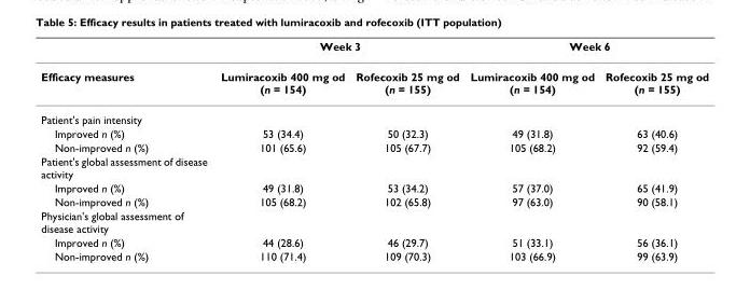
<table><thead><tr><td rowspan="2">Efficacy measures</td><td colspan="2">Week 3</td><td colspan="2">Week 6</td></tr><tr><td>Lumiracoxib 400 mg od (n = 154)</td><td>Rofecoxib 25 mg od (n = 155)</td><td>Lumiracoxib 400 mg od (n = 154)</td><td>Rofecoxib 25 mg od (n = 155)</td></tr></thead><tbody><tr><td colspan="5">Patient&#x27;s pain intensity</td></tr><tr><td>Improved n (%)</td><td>53 (34.4)</td><td>50 (32.3)</td><td>49 (31.8)</td><td>63 (40.6)</td></tr><tr><td>Non-improved n (%)</td><td>101 (65.6)</td><td>105 (67.7)</td><td>105 (68.2)</td><td>92 (59.4)</td></tr><tr><td colspan="5">Patient&#x27;s global assessment of disease activity</td></tr><tr><td>Improved n (%)</td><td>49 (31.8)</td><td>53 (34.2)</td><td>57 (37.0)</td><td>65 (41.9)</td></tr><tr><td>Non-improved n (%)</td><td>105 (68.2)</td><td>102 (65.8)</td><td>97 (63.0)</td><td>90 (58.1)</td></tr><tr><td colspan="5">Physician&#x27;s global assessment of disease activity</td></tr><tr><td>Improved n (%)</td><td>44 (28.6)</td><td>46 (29.7)</td><td>51 (33.1)</td><td>56 (36.1)</td></tr><tr><td>Non-improved n (%)</td><td>110 (71.4)</td><td>109 (70.3)</td><td>103 (66.9)</td><td>99 (63.9)</td></tr></tbody></table>